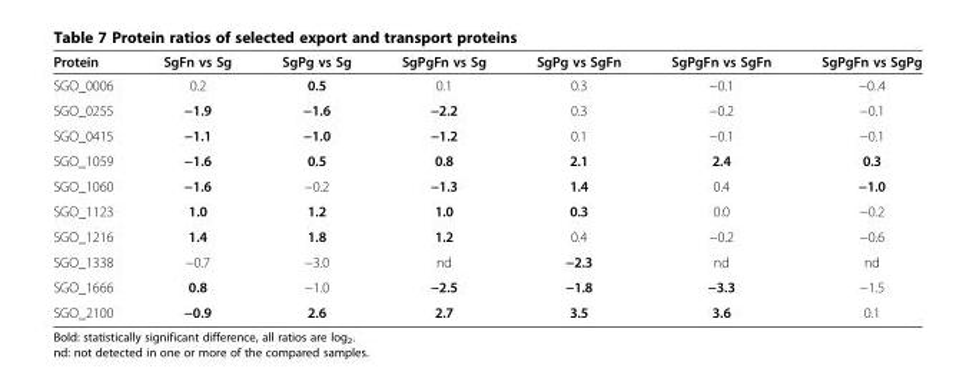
<table><thead><tr><td>Protein</td><td>SgFn vs Sg</td><td>SgPg vs Sg</td><td>SgPgFn vs Sg</td><td>SgPg vs SgFn</td><td>SgPgFn vs SgFn</td><td>SgPgFn vs SgPg</td></tr></thead><tbody><tr><td>SGO_0006</td><td>0.2</td><td>0.5</td><td>0.1</td><td>0.3</td><td>−0.1</td><td>−0..4</td></tr><tr><td>SGO_0255</td><td>−1.9</td><td>−1.6</td><td>−2.2</td><td>0.3</td><td>−0.2</td><td>−0.1</td></tr><tr><td>SGO_0415</td><td>−1.1</td><td>−1.0</td><td>−1.2</td><td>0.1</td><td>−0.1</td><td>−0.1</td></tr><tr><td>SGO_1059</td><td>−1.6</td><td>0.5</td><td>0.8</td><td>2.1</td><td>2.4</td><td>0.3</td></tr><tr><td>SGO_1060</td><td>−1.6</td><td>−0.2</td><td>−1.3</td><td>1.4</td><td>0.4</td><td>−1.0</td></tr><tr><td>SGO_1123</td><td>1.0</td><td>1.2</td><td>1.0</td><td>0.3</td><td>0.0</td><td>−0.2</td></tr><tr><td>SGO_1216</td><td>1.4</td><td>1.8</td><td>1.2</td><td>0.4</td><td>−0.2</td><td>−0.6</td></tr><tr><td>SGO_1338</td><td>−0.7</td><td>−3.0</td><td>nd</td><td>−2.3</td><td>nd</td><td>nd</td></tr><tr><td>SGO_1666</td><td>0.8</td><td>−1.0</td><td>−2.5</td><td>−1.8</td><td>−3.3</td><td>−1.5</td></tr><tr><td>SGO_2100</td><td>−0.9</td><td>2.6</td><td>2.7</td><td>3.5</td><td>3.6</td><td>0.1</td></tr></tbody></table>